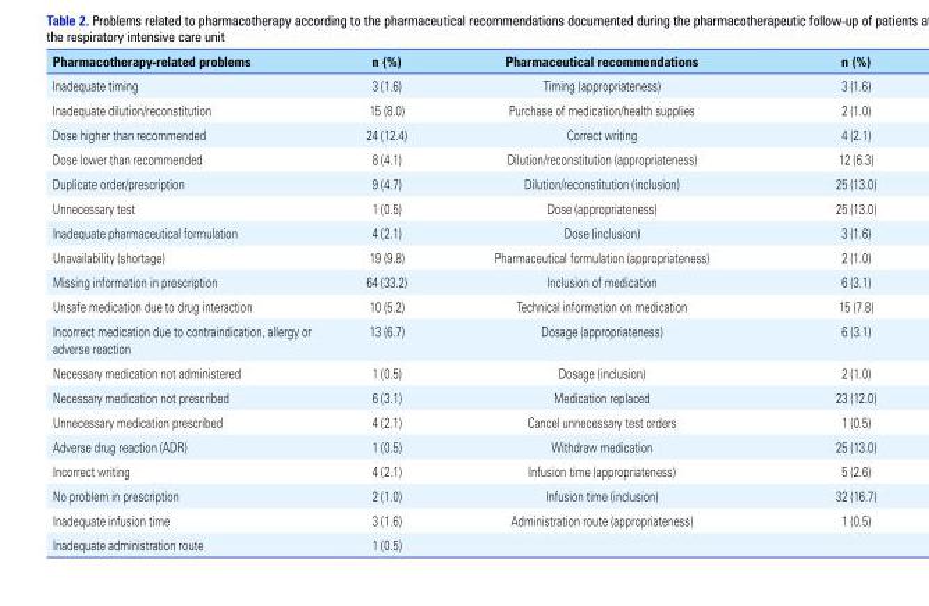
<table><thead><tr><td>Pharmacotherapy-related problems</td><td>n (%)</td><td>Pharmaceutical recommendations</td><td>n (%)</td></tr></thead><tbody><tr><td>Inadequate timing</td><td>3 (1.6)</td><td>Timing (appropriateness)</td><td>3 (1.6)</td></tr><tr><td>Inadequate dilution/reconstitution</td><td>15 (8.0)</td><td>Purchase of medication/health supplies</td><td>2 (1.0)</td></tr><tr><td>Dose higher than recommended</td><td>24 (12.4)</td><td>Correct writing</td><td>4 (2.1)</td></tr><tr><td>Dose lower than recommended</td><td>8 (4.1)</td><td>Dilution/reconstitution (appropriateness)</td><td>12 (6.3)</td></tr><tr><td>Duplicate order/prescription</td><td>9 (4.7)</td><td>Dilution/reconstitution (inclusion)</td><td>25 (13.0)</td></tr><tr><td>Unnecessary test</td><td>1 (0.5)</td><td>Dose (appropriateness)</td><td>25 (13.0)</td></tr><tr><td>Inadequate pharmaceutical formulation</td><td>4 (2.1)</td><td>Dose (inclusion)</td><td>3 (1.6)</td></tr><tr><td>Unavailability (shortage)</td><td>19 (9.8)</td><td>Pharmaceutical formulation (appropriateness)</td><td>2 (1.0)</td></tr><tr><td>Missing information in prescription</td><td>64 (33.2)</td><td>Inclusion of medication</td><td>6 (3.1)</td></tr><tr><td>Unsafe medication due to drug interaction</td><td>10 (5.2)</td><td>Technical information on medication</td><td>15 (7.8)</td></tr><tr><td>Incorrect medication due to contraindication, allergy or adverse reaction</td><td>13 (6.7)</td><td>Dosage (appropriateness)</td><td>6 (3.1)</td></tr><tr><td>Necessary medication not administered</td><td>1 (0.5)</td><td>Dosage (inclusion)</td><td>2 (1.0)</td></tr><tr><td>Necessary medication not prescribed</td><td>6 (3.1)</td><td>Medication replaced</td><td>23 (12.0)</td></tr><tr><td>Unnecessary medication prescribed</td><td>4 (2.1)</td><td>Cancel unnecessary test orders</td><td>1 (0.5)</td></tr><tr><td>Adverse drug reaction (ADR)</td><td>1 (0.5)</td><td>Withdraw medication</td><td>25 (13.0)</td></tr><tr><td>Incorrect writing</td><td>4 (2.1)</td><td>Infusion time (appropriateness)</td><td>5 (2.6)</td></tr><tr><td>No problem in prescription</td><td>2 (1.0)</td><td>Infusion time (inclusion)</td><td>32 (16.7)</td></tr><tr><td>Inadequate infusion time</td><td>3 (1.6)</td><td>Administration route (appropriateness)</td><td>1 (0.5)</td></tr><tr><td>Inadequate administration route</td><td>1 (0.5)</td><td></td><td></td></tr></tbody></table>